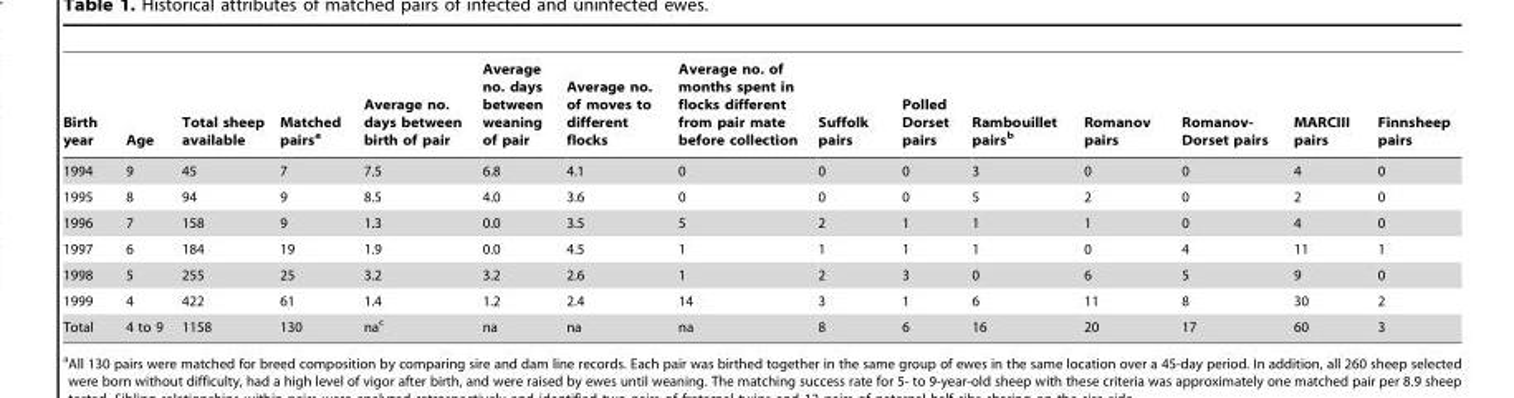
<table><thead><tr><td>Birth year</td><td>Age</td><td>Total sheep available</td><td>Matched pairs<sup>a</sup></td><td>Average no. days between birth of pair</td><td>Average no. days between weaning of pair</td><td>Average no. of moves to different flocks</td><td>Average no. of months spent in flocks different from pair mate before collection</td><td>Suffolk pairs</td><td>Polled Dorset pairs</td><td>Rambouillet pairs<sup>b</sup></td><td>Romanov pairs</td><td>Romanov- Dorset pairs</td><td>MARCIII pairs</td><td>Finnsheep pairs</td></tr></thead><tbody><tr><td>1994</td><td>9</td><td>45</td><td>7</td><td>7.5</td><td>6.8</td><td>4.1</td><td>0</td><td>0</td><td>0</td><td>3</td><td>0</td><td>0</td><td>4</td><td>0</td></tr><tr><td>1995</td><td>8</td><td>94</td><td>9</td><td>8.5</td><td>4.0</td><td>3.6</td><td>0</td><td>0</td><td>0</td><td>5</td><td>2</td><td>0</td><td>2</td><td>0</td></tr><tr><td>1996</td><td>7</td><td>158</td><td>9</td><td>1.3</td><td>0.0</td><td>3.5</td><td>5</td><td>2</td><td>1</td><td>1</td><td>1</td><td>0</td><td>4</td><td>0</td></tr><tr><td>1997</td><td>6</td><td>184</td><td>19</td><td>1.9</td><td>0.0</td><td>4.5</td><td>1</td><td>1</td><td>1</td><td>1</td><td>0</td><td>4</td><td>11</td><td>1</td></tr><tr><td>1998</td><td>5</td><td>255</td><td>25</td><td>3.2</td><td>3.2</td><td>2.6</td><td>1</td><td>2</td><td>3</td><td>0</td><td>6</td><td>5</td><td>9</td><td>0</td></tr><tr><td>1999</td><td>4</td><td>422</td><td>61</td><td>1.4</td><td>1.2</td><td>2.4</td><td>14</td><td>3</td><td>1</td><td>6</td><td>11</td><td>8</td><td>30</td><td>2</td></tr><tr><td>Total</td><td>4 to 9</td><td>1158</td><td>130</td><td>na<sup>c</sup></td><td>na</td><td>na</td><td>na</td><td>8</td><td>6</td><td>16</td><td>20</td><td>17</td><td>60</td><td>3</td></tr></tbody></table>